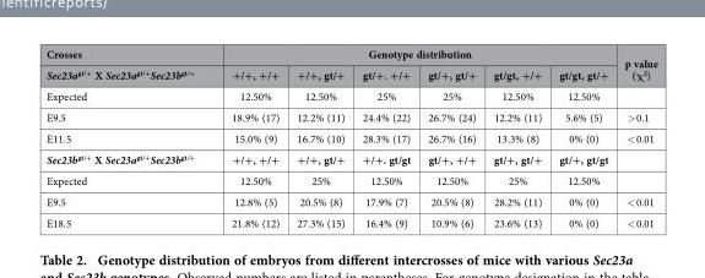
<table><thead><tr><td rowspan="2">Crosses Sec23agt/+ X Sec23agt/+Sec23bgt/+</td><td colspan="6">Genotype distribution</td><td rowspan="2">p value (χ<sup>2</sup>)</td></tr><tr><td>+/+, +/+</td><td>+/+, gt/+</td><td>gt/+. +/+</td><td>gt/+, gt/+</td><td>gt/gt, +/+</td><td>gt/gt, gt/+</td></tr></thead><tbody><tr><td>Expected</td><td>12.50%</td><td>12.50%</td><td>25%</td><td>25%</td><td>12.50%</td><td>12.50%</td><td></td></tr><tr><td>E9.5</td><td>18.9% (17)</td><td>12.2% (11)</td><td>24.4% (22)</td><td>26.7% (24)</td><td>12.2% (11)</td><td>5.6% (5)</td><td>&gt; 0.1</td></tr><tr><td>E11.5</td><td>15.0% (9)</td><td>16.7% (10)</td><td>28.3% (17)</td><td>26.7% (16)</td><td>13.3% (8)</td><td>0% (0)</td><td>&lt; 0.01</td></tr><tr><td>Sec23b<sup>gt/+</sup> X Sec23a<sup>gt/+</sup>Sec23b<sup>gt/+</sup></td><td>+/+, +/+</td><td>+/+, gt/+</td><td>+/+. gt/gt</td><td>gt/+, +/+</td><td>gt/+, gt/+</td><td>gt/+, gt/gt</td><td></td></tr><tr><td>Expected</td><td>12.50%</td><td>25%</td><td>12.50%</td><td>12.50%</td><td>25%</td><td>12.50%</td><td></td></tr><tr><td>E9.5</td><td>12.8% (5)</td><td>20.5% (8)</td><td>17.9% (7)</td><td>20.5% (8)</td><td>28.2% (11)</td><td>0% (0)</td><td>&lt; 0.01</td></tr><tr><td>E18.5</td><td>21.8% (12)</td><td>27.3% (15)</td><td>16.4% (9)</td><td>10.9% (6)</td><td>23.6% (13)</td><td>0% (0)</td><td>&lt; 0.01</td></tr></tbody></table>